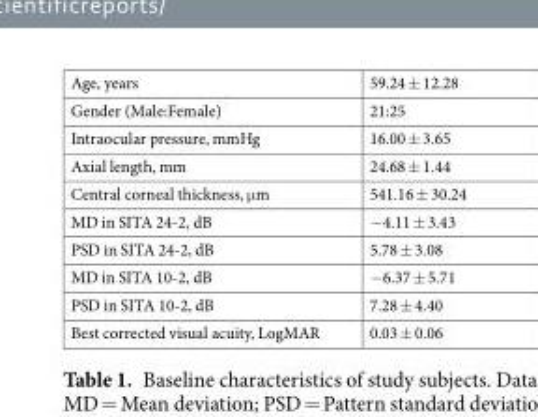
<table><tbody><tr><td>Age, years</td><td>59.24 ± 12.28</td></tr><tr><td>Gender (Male:Female)</td><td>21:25</td></tr><tr><td>Intraocular pressure, mmHg</td><td>16.00 ± 3.65</td></tr><tr><td>Axial length, mm</td><td>24.68 ± 1.44</td></tr><tr><td>Central corneal thickness, μm</td><td>541.16 ± 30.24</td></tr><tr><td>MD in SITA 24-2, dB</td><td>−4.11 ± 3.43</td></tr><tr><td>PSD in SITA 24-2, dB</td><td>5.78 ± 3.08</td></tr><tr><td>MD in SITA 10-2, dB</td><td>−6.37 ± 5.71</td></tr><tr><td>PSD in SITA 10-2, dB</td><td>7.28 ± 4.40</td></tr><tr><td>Best corrected visual acuity, LogMAR</td><td>0.03 ± 0.06</td></tr></tbody></table>